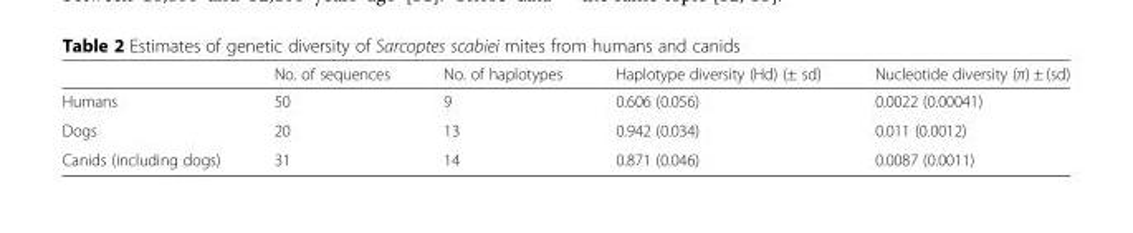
<table><thead><tr><td></td><td>No. of sequences</td><td>No. of haplotypes</td><td>Haplotype diversity (Hd) (± sd)</td><td>Nucleotide diversity (π) ± (sd)</td></tr></thead><tbody><tr><td>Humans</td><td>50</td><td>9</td><td>0.606 (0.056)</td><td>0.0022 (0.00041)</td></tr><tr><td>Dogs</td><td>20</td><td>13</td><td>0.942 (0.034)</td><td>0.011 (0.0012)</td></tr><tr><td>Canids (including dogs)</td><td>31</td><td>14</td><td>0.871 (0.046)</td><td>0.0087 (0.0011)</td></tr></tbody></table>